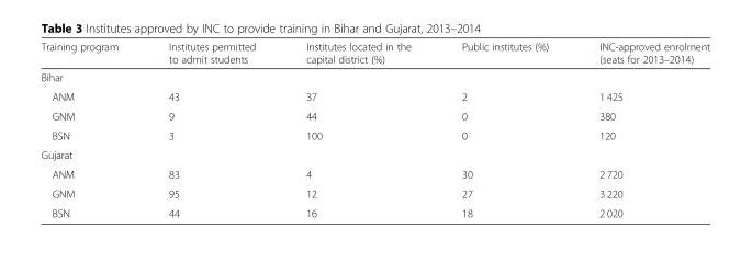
<table><thead><tr><td>Training program</td><td>Institutes permitted to admit students</td><td>Institutes located in the capital district (%)</td><td>Public institutes (%)</td><td>INC-approved enrolment (seats for 2013–2014)</td></tr></thead><tbody><tr><td colspan="5">Bihar</td></tr><tr><td>ANM</td><td>43</td><td>37</td><td>2</td><td>1 425</td></tr><tr><td>GNM</td><td>9</td><td>44</td><td>0</td><td>380</td></tr><tr><td>BSN</td><td>3</td><td>100</td><td>0</td><td>120</td></tr><tr><td colspan="5">Gujarat</td></tr><tr><td>ANM</td><td>83</td><td>4</td><td>30</td><td>2 720</td></tr><tr><td>GNM</td><td>95</td><td>12</td><td>27</td><td>3 220</td></tr><tr><td>BSN</td><td>44</td><td>16</td><td>18</td><td>2 020</td></tr></tbody></table>